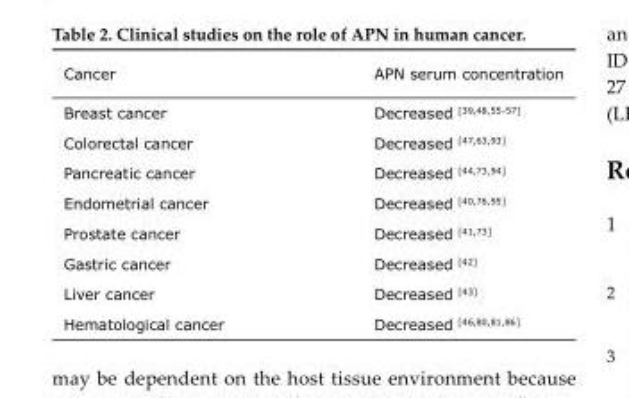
<table><thead><tr><td>Cancer</td><td>APN serum concentration</td></tr></thead><tbody><tr><td>Breast cancer</td><td>Decreased <sup>[39,48,55-57]</sup></td></tr><tr><td>Colorectal cancer</td><td>Decreased <sup>[47,63,93]</sup></td></tr><tr><td>Pancreatic cancer</td><td>Decreased <sup>[44,73,94]</sup></td></tr><tr><td>Endometrial cancer</td><td>Decreased <sup>[40,76,95]</sup></td></tr><tr><td>Prostate cancer</td><td>Decreased <sup>[41,73]</sup></td></tr><tr><td>Gastric cancer</td><td>Decreased <sup>[42]</sup></td></tr><tr><td>Liver cancer</td><td>Decreased <sup>[43]</sup></td></tr><tr><td>Hematological cancer</td><td>Decreased <sup>[46,80,81,86]</sup></td></tr></tbody></table>